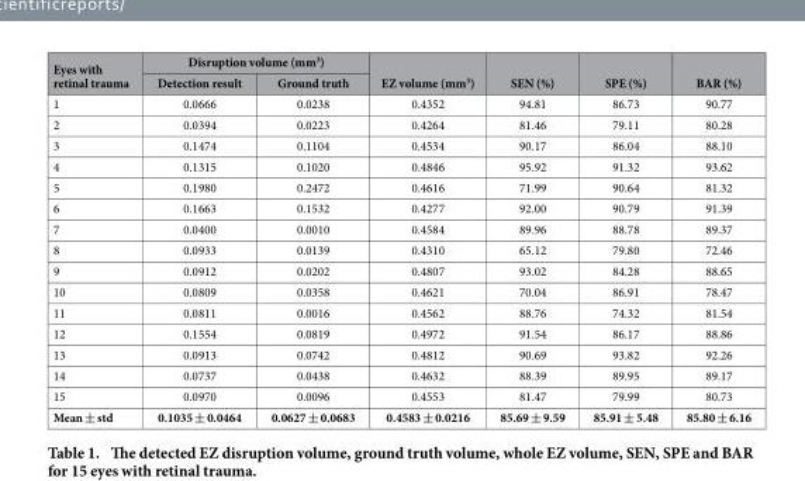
<table><thead><tr><td rowspan="2">Eyes with retinal trauma</td><td colspan="2">Disruption volume (mm<sup>3</sup>)</td><td rowspan="2">EZ volume (mm<sup>3</sup>)</td><td rowspan="2">SEN (%)</td><td rowspan="2">SPE (%)</td><td rowspan="2">BAR (%)</td></tr><tr><td>Detection result</td><td>Ground truth</td></tr></thead><tbody><tr><td>1</td><td>0.0666</td><td>0.0238</td><td>0.4352</td><td>94.81</td><td>86.73</td><td>90.77</td></tr><tr><td>2</td><td>0.0394</td><td>0.0223</td><td>0.4264</td><td>81.46</td><td>79.11</td><td>80.28</td></tr><tr><td>3</td><td>0.1474</td><td>0.1104</td><td>0.4534</td><td>90.17</td><td>86.04</td><td>88.10</td></tr><tr><td>4</td><td>0.1315</td><td>0.1020</td><td>0.4846</td><td>95.92</td><td>91.32</td><td>93.62</td></tr><tr><td>5</td><td>0.1980</td><td>0.2472</td><td>0.4616</td><td>71.99</td><td>90.64</td><td>81.32</td></tr><tr><td>6</td><td>0.1663</td><td>0.1532</td><td>0.4277</td><td>92.00</td><td>90.79</td><td>91.39</td></tr><tr><td>7</td><td>0.0400</td><td>0.0010</td><td>0.4584</td><td>89.96</td><td>88.78</td><td>89.37</td></tr><tr><td>8</td><td>0.0933</td><td>0.0139</td><td>0.4310</td><td>65.12</td><td>79.80</td><td>72.46</td></tr><tr><td>9</td><td>0.0912</td><td>0.0202</td><td>0.4807</td><td>93.02</td><td>84.28</td><td>88.65</td></tr><tr><td>10</td><td>0.0809</td><td>0.0358</td><td>0.4621</td><td>70.04</td><td>86.91</td><td>78.47</td></tr><tr><td>11</td><td>0.0811</td><td>0.0016</td><td>0.4562</td><td>88.76</td><td>74.32</td><td>81.54</td></tr><tr><td>12</td><td>0.1554</td><td>0.0819</td><td>0.4972</td><td>91.54</td><td>86.17</td><td>88.86</td></tr><tr><td>13</td><td>0.0913</td><td>0.0742</td><td>0.4812</td><td>90.69</td><td>93.82</td><td>92.26</td></tr><tr><td>14</td><td>0.0737</td><td>0.0438</td><td>0.4632</td><td>88.39</td><td>89.95</td><td>89.17</td></tr><tr><td>15</td><td>0.0970</td><td>0.0096</td><td>0.4553</td><td>81.47</td><td>79.99</td><td>80.73</td></tr><tr><td>Mean ± std</td><td>0.1035 ± 0.0464</td><td>0.0627 ± 0.0683</td><td>0.4583 ± 0.0216</td><td>85.69 ± 9.59</td><td>85.91 ± 5.48</td><td>85.80 ± 6.16</td></tr></tbody></table>